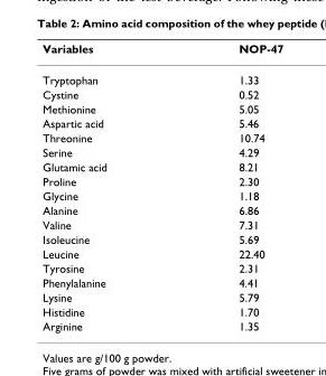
<table><thead><tr><td>Variables</td><td>NOP-47</td></tr></thead><tbody><tr><td>Tryptophan</td><td>1.33</td></tr><tr><td>Cystine</td><td>0.52</td></tr><tr><td>Methionine</td><td>5.05</td></tr><tr><td>Aspartic acid</td><td>5.46</td></tr><tr><td>Threonine</td><td>10.74</td></tr><tr><td>Serine</td><td>4.29</td></tr><tr><td>Glutamic acid</td><td>8.21</td></tr><tr><td>Proline</td><td>2.30</td></tr><tr><td>Glycine</td><td>1.18</td></tr><tr><td>Alanine</td><td>6.86</td></tr><tr><td>Valine</td><td>7.31</td></tr><tr><td>Isoleucine</td><td>5.69</td></tr><tr><td>Leucine</td><td>22.40</td></tr><tr><td>Tyrosine</td><td>2.31</td></tr><tr><td>Phenylalanine</td><td>4.41</td></tr><tr><td>Lysine</td><td>5.79</td></tr><tr><td>Histidine</td><td>1.70</td></tr><tr><td>Arginine</td><td>1.35</td></tr></tbody></table>